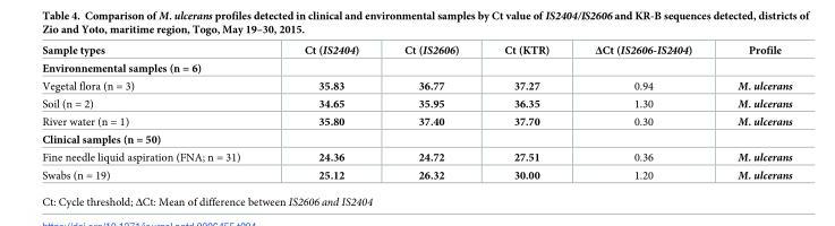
<table><thead><tr><td>Sample types</td><td>Ct (IS2404)</td><td>Ct (IS2606)</td><td>Ct (KTR)</td><td>ΔCt (IS2606-IS2404)</td><td>Profile</td></tr></thead><tbody><tr><td colspan="6">Environnemental samples (n = 6)</td></tr><tr><td>Vegetal flora (n = 3)</td><td>35.83</td><td>36.77</td><td>37.27</td><td>0.94</td><td>M. ulcerans</td></tr><tr><td>Soil (n = 2)</td><td>34.65</td><td>35.95</td><td>36.35</td><td>1.30</td><td>M. ulcerans</td></tr><tr><td>River water (n = 1)</td><td>35.80</td><td>37.40</td><td>37.70</td><td>0.30</td><td>M. ulcerans</td></tr><tr><td colspan="6">Clinical samples (n = 50)</td></tr><tr><td>Fine needle liquid aspiration (FNA; n = 31)</td><td>24.36</td><td>24.72</td><td>27.51</td><td>0.36</td><td>M. ulcerans</td></tr><tr><td>Swabs (n = 19)</td><td>25.12</td><td>26.32</td><td>30.00</td><td>1.20</td><td>M. ulcerans</td></tr></tbody></table>